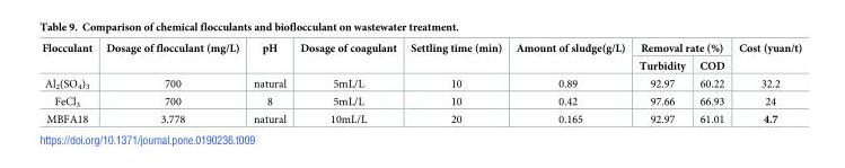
<table><thead><tr><td rowspan="2">Flocculant</td><td rowspan="2">Dosage of flocculant (mg/L)</td><td rowspan="2">pH</td><td rowspan="2">Dosage of coagulant</td><td rowspan="2">Settling time (min)</td><td rowspan="2">Amount of sludge(g/L)</td><td colspan="2">Removal rate (%)</td><td rowspan="2">Cost (yuan/t)</td></tr><tr><td>Turbidity</td><td>COD</td></tr></thead><tbody><tr><td>Al<sub>2</sub>(SO<sub>4</sub>)<sub>3</sub></td><td>700</td><td>natural</td><td>5mL/L</td><td>10</td><td>0.89</td><td>92.97</td><td>60.22</td><td>32.2</td></tr><tr><td>FeCl<sub>3</sub></td><td>700</td><td>8</td><td>5mL/L</td><td>10</td><td>0.42</td><td>97.66</td><td>66.93</td><td>24</td></tr><tr><td>MBFA18</td><td>3.778</td><td>natural</td><td>10mL/L</td><td>20</td><td>0.165</td><td>92.97</td><td>61.01</td><td>4.7</td></tr></tbody></table>